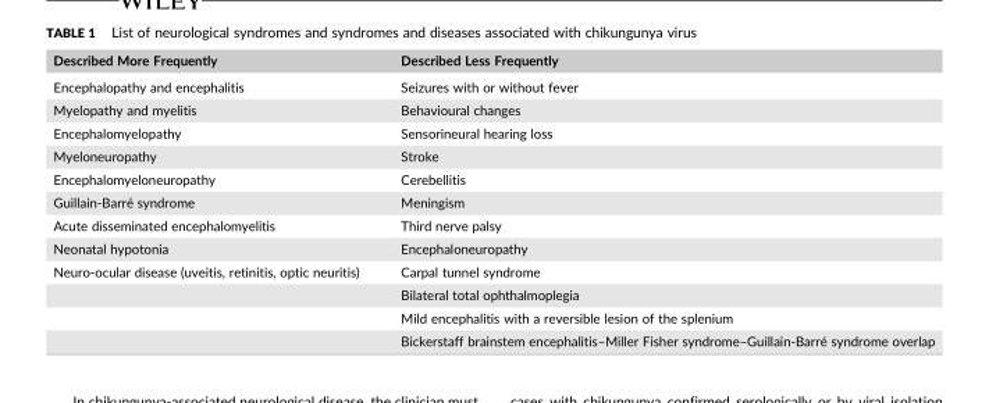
<table><thead><tr><td>Described More Frequently</td><td>Described Less Frequently</td></tr></thead><tbody><tr><td>Encephalopathy and encephalitis</td><td>Seizures with or without fever</td></tr><tr><td>Myelopathy and myelitis</td><td>Behavioural changes</td></tr><tr><td>Encephalomyelopathy</td><td>Sensorineural hearing loss</td></tr><tr><td>Myeloneuropathy</td><td>Stroke</td></tr><tr><td>Encephalomyeloneuropathy</td><td>Cerebellitis</td></tr><tr><td>Guillain‐Barré syndrome</td><td>Meningism</td></tr><tr><td>Acute disseminated encephalomyelitis</td><td>Third nerve palsy</td></tr><tr><td>Neonatal hypotonia</td><td>Encephaloneuropathy</td></tr><tr><td rowspan="4">Neuro‐ocular disease (uveitis, retinitis, optic neuritis)</td><td>Carpal tunnel syndrome</td></tr><tr><td>Bilateral total ophthalmoplegia</td></tr><tr><td>Mild encephalitis with a reversible lesion of the splenium</td></tr><tr><td>Bickerstaff brainstem encephalitis–Miller Fisher syndrome–Guillain‐Barré syndrome overlap</td></tr></tbody></table>